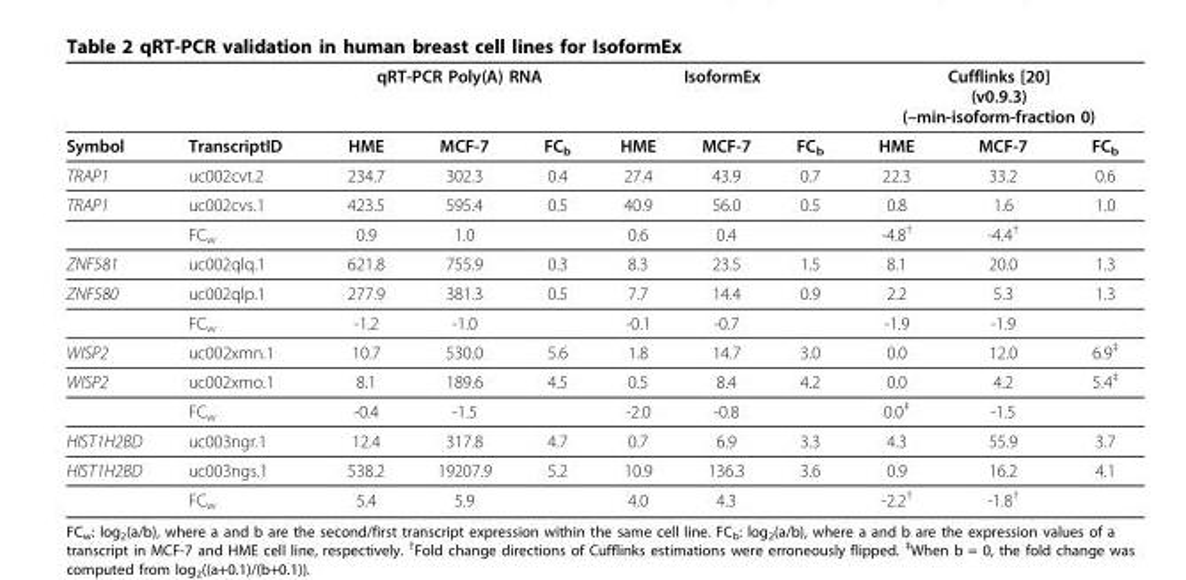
<table><thead><tr><td rowspan="2">Symbol</td><td rowspan="2">TranscriptID</td><td colspan="3">qRT-PCR Poly(A) RNA</td><td colspan="3">IsoformEx</td><td colspan="3">Cufflinks [20] (v0.9.3) (–min-isoform-fraction 0)</td></tr><tr><td>HME</td><td>MCF-7</td><td>FC<sub>b</sub></td><td>HME</td><td>MCF-7</td><td>FC<sub>b</sub></td><td>HME</td><td>MCF-7</td><td>FC<sub>b</sub></td></tr></thead><tbody><tr><td>TRAP1</td><td>uc002cvt.2</td><td>234.7</td><td>302.3</td><td>0.4</td><td>27.4</td><td>43.9</td><td>0.7</td><td>22.3</td><td>33.2</td><td>0.6</td></tr><tr><td rowspan="2">TRAP1</td><td>uc002cvs.1</td><td>423.5</td><td>595.4</td><td>0.5</td><td>40.9</td><td>56.0</td><td>0.5</td><td>0.8</td><td>1.6</td><td>1.0</td></tr><tr><td>FC<sub>w</sub></td><td>0.9</td><td>1.0</td><td></td><td>0.6</td><td>0.4</td><td></td><td>-4.8<sup>†</sup></td><td>-4.4<sup>†</sup></td><td></td></tr><tr><td>ZNF581</td><td>uc002qlq.1</td><td>621.8</td><td>755.9</td><td>0.3</td><td>8.3</td><td>23.5</td><td>1.5</td><td>8.1</td><td>20.0</td><td>1.3</td></tr><tr><td rowspan="2">ZNF580</td><td>uc002qlp.1</td><td>277.9</td><td>381.3</td><td>0.5</td><td>7.7</td><td>14.4</td><td>0.9</td><td>2.2</td><td>5.3</td><td>1.3</td></tr><tr><td>FC<sub>w</sub></td><td>-1.2</td><td>-1.0</td><td></td><td>-0.1</td><td>-0.7</td><td></td><td>-1.9</td><td>-1.9</td><td></td></tr><tr><td>WISP2</td><td>uc002xmn.1</td><td>10.7</td><td>530.0</td><td>5.6</td><td>1.8</td><td>14.7</td><td>3.0</td><td>0.0</td><td>12.0</td><td>6.9<sup>‡</sup></td></tr><tr><td rowspan="2">WISP2</td><td>uc002xmo.1</td><td>8.1</td><td>189.6</td><td>4.5</td><td>0.5</td><td>8.4</td><td>4.2</td><td>0.0</td><td>4.2</td><td>5.4<sup>‡</sup></td></tr><tr><td>FC<sub>w</sub></td><td>-0.4</td><td>-1.5</td><td></td><td>-2.0</td><td>-0.8</td><td></td><td>0.0<sup>‡</sup></td><td>-1.5</td><td></td></tr><tr><td>HIST1H2BD</td><td>uc003ngr.1</td><td>12.4</td><td>317.8</td><td>4.7</td><td>0.7</td><td>6.9</td><td>3.3</td><td>4.3</td><td>55.9</td><td>3.7</td></tr><tr><td rowspan="2">HIST1H2BD</td><td>uc003ngs.1</td><td>538.2</td><td>19207.9</td><td>5.2</td><td>10.9</td><td>136.3</td><td>3.6</td><td>0.9</td><td>16.2</td><td>4.1</td></tr><tr><td>FC<sub>w</sub></td><td>5.4</td><td>5.9</td><td></td><td>4.0</td><td>4.3</td><td></td><td>-2.2<sup>†</sup></td><td>-1.8<sup>†</sup></td><td></td></tr></tbody></table>